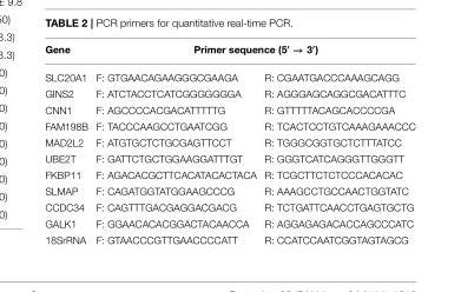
<table><thead><tr><td rowspan="2">Gene SLC20A1</td><td colspan="2">Primer sequence (5′ → 3′)</td></tr><tr><td>F: GTGAACAGAAGGGCGAAGA</td><td>R: CGAATGACCCAAAGCAGG</td></tr></thead><tbody><tr><td>GINS2</td><td>F: ATCTACCTCATCGGGGGGGA</td><td>R: AGGGAGCAGGCGACATTTC</td></tr><tr><td>CNN1</td><td>F: AGCCCCACGACATTTTTG</td><td>R: GTTTTTACAGCACCCCGA</td></tr><tr><td>FAM198B</td><td>F: TACCCAAGCCTGAATCGG</td><td>R: TCACTCCTGTCAAAGAAACCC</td></tr><tr><td>MAD2L2</td><td>F: ATGTGCTCTGCGAGTTCCT</td><td>R: TGGGCGGTGCTCTTTATCC</td></tr><tr><td>UBE2T</td><td>F: GATTCTGCTGGAAGGATTTGT</td><td>R: GGGTCATCAGGGTTGGGTT</td></tr><tr><td>FKBP11</td><td>F: AGACACGCTTCACATACACTACA</td><td>R: TCGCTTCTCTCCCACACAC</td></tr><tr><td>SLMAP</td><td>F: CAGATGGTATGGAAGCCCG</td><td>R: AAAGCCTGCCAACTGGTATC</td></tr><tr><td>CCDC34</td><td>F: CAGTTTGACGAGGACGACG</td><td>R: TCTGATTCAACCTGAGTGCTG</td></tr><tr><td>GALK1</td><td>F: GGAACACACGGACTACAACCA</td><td>R: AGGAGAGACACCAGCCCATC</td></tr><tr><td>18SrRNA</td><td>F: GTAACCCGTTGAACCCCATT</td><td>R: CCATCCAATCGGTAGTAGCG</td></tr></tbody></table>